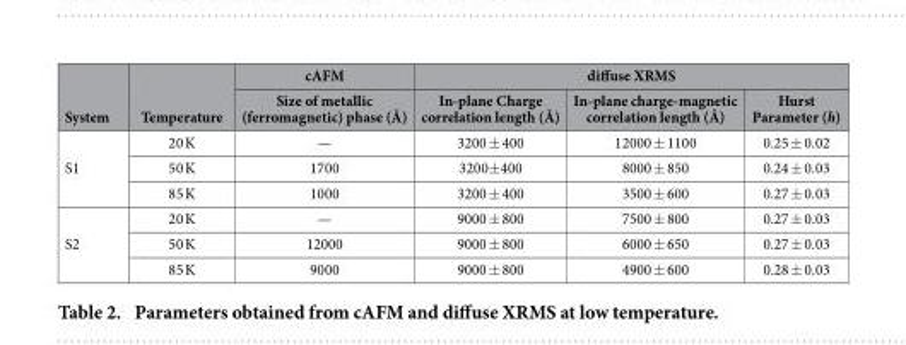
<table><thead><tr><td rowspan="2">System</td><td rowspan="2">Temperature</td><td rowspan="2">cAFM Size of metallic (ferromagnetic) phase (Å)</td><td colspan="3">diffuse XRMS</td></tr><tr><td>In-plane Charge correlation length (Å)</td><td>In-plane charge-magnetic correlation length (Å)</td><td>Hurst Parameter (h)</td></tr></thead><tbody><tr><td rowspan="3">S1</td><td>20 K</td><td>—</td><td>3200 ± 400</td><td>12000 ± 1100</td><td>0.25 ± 0.02</td></tr><tr><td>50 K</td><td>1700</td><td>3200± 400</td><td>8000 ± 850</td><td>0.24 ± 0.03</td></tr><tr><td>85 K</td><td>1000</td><td>3200 ± 400</td><td>3500 ± 600</td><td>0.27 ± 0.03</td></tr><tr><td rowspan="3">S2</td><td>20 K</td><td>—</td><td>9000 ± 800</td><td>7500 ± 800</td><td>0.27 ± 0.03</td></tr><tr><td>50 K</td><td>12000</td><td>9000 ± 800</td><td>6000 ± 650</td><td>0.27 ± 0.03</td></tr><tr><td>85 K</td><td>9000</td><td>9000 ± 800</td><td>4900 ± 600</td><td>0.28 ± 0.03</td></tr></tbody></table>